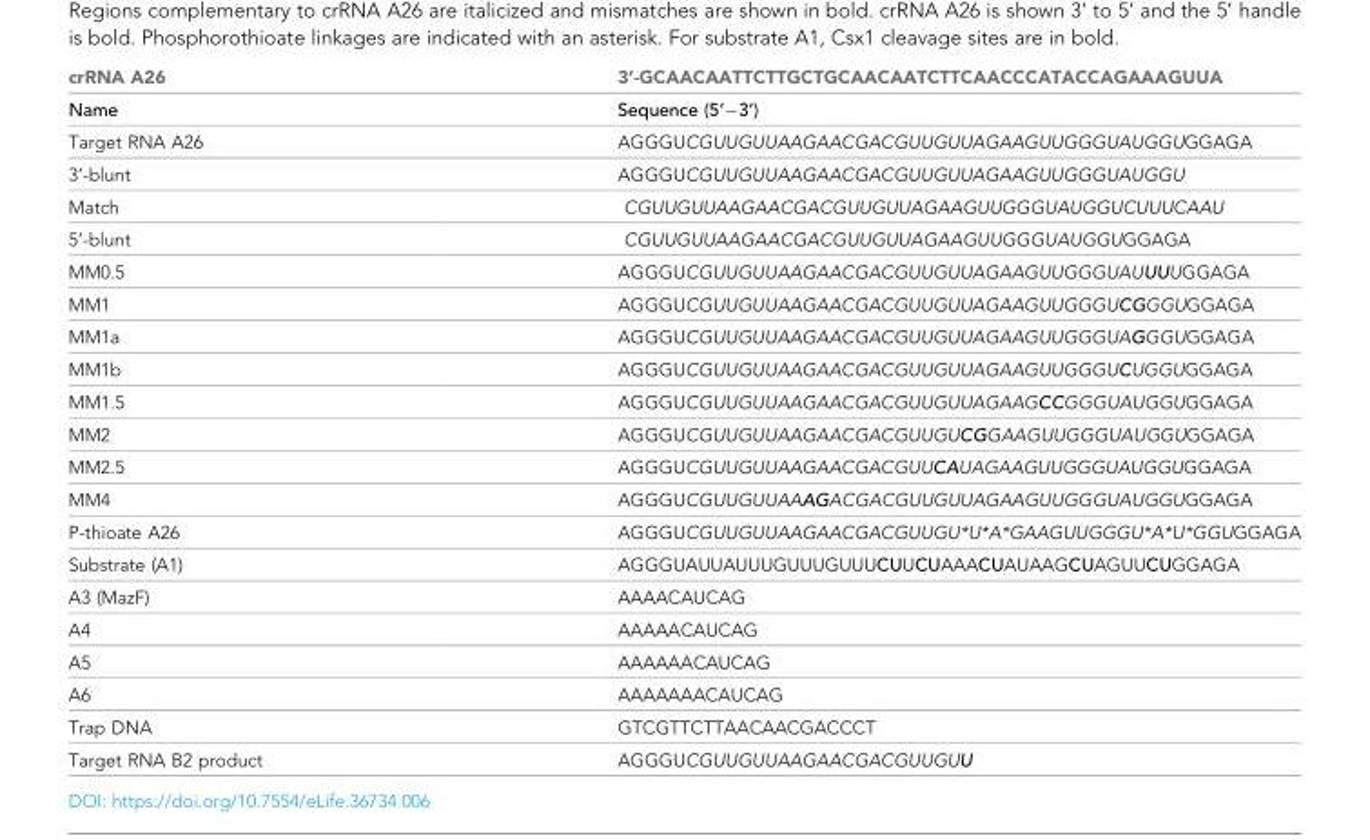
<table><thead><tr><td>crRNA A26</td><td>3’-GCAACAATTCTTGCTGCAACAATCTTCAACCCATACCAGAAAGUUA</td></tr></thead><tbody><tr><td>Name</td><td>Sequence (5’−3’)</td></tr><tr><td>Target RNA A26</td><td>AGGGUCGUUGUUAAGAACGACGUUGUUAGAAGUUGGGUAUGGUGGAGA</td></tr><tr><td>3’-blunt</td><td>AGGGUCGUUGUUAAGAACGACGUUGUUAGAAGUUGGGUAUGGU</td></tr><tr><td>Match</td><td>CGUUGUUAAGAACGACGUUGUUAGAAGUUGGGUAUGGUCUUUCAAU</td></tr><tr><td>5’-blunt</td><td>CGUUGUUAAGAACGACGUUGUUAGAAGUUGGGUAUGGUGGAGA</td></tr><tr><td>MM0.5</td><td>AGGGUCGUUGUUAAGAACGACGUUGUUAGAAGUUGGGUAUUUUGGAGA</td></tr><tr><td>MM1</td><td>AGGGUCGUUGUUAAGAACGACGUUGUUAGAAGUUGGGUCGGGUGGAGA</td></tr><tr><td>MM1a</td><td>AGGGUCGUUGUUAAGAACGACGUUGUUAGAAGUUGGGUAGGGUGGAGA</td></tr><tr><td>MM1b</td><td>AGGGUCGUUGUUAAGAACGACGUUGUUAGAAGUUGGGUCUGGUGGAGA</td></tr><tr><td>MM1.5</td><td>AGGGUCGUUGUUAAGAACGACGUUGUUAGAAGCCGGGUAUGGUGGAGA</td></tr><tr><td>MM2</td><td>AGGGUCGUUGUUAAGAACGACGUUGUCGGAAGUUGGGUAUGGUGGAGA</td></tr><tr><td>MM2.5</td><td>AGGGUCGUUGUUAAGAACGACGUUCAUAGAAGUUGGGUAUGGUGGAGA</td></tr><tr><td>MM4</td><td>AGGGUCGUUGUUAAAGACGACGUUGUUAGAAGUUGGGUAUGGUGGAGA</td></tr><tr><td>P-thioate A26</td><td>AGGGUCGUUGUUAAGAACGACGUUGU*U*A*GAAGUUGGGU*A*U*GGUGGAGA</td></tr><tr><td>Substrate (A1)</td><td>AGGGUAUUAUUUGUUUGUUUCUUCUAAACUAUAAGCUAGUUCUGGAGA</td></tr><tr><td>A3 (MazF)</td><td>AAAACAUCAG</td></tr><tr><td>A4</td><td>AAAAACAUCAG</td></tr><tr><td>A5</td><td>AAAAAACAUCAG</td></tr><tr><td>A6</td><td>AAAAAAACAUCAG</td></tr><tr><td>Trap DNA</td><td>GTCGTTCTTAACAACGACCCT</td></tr><tr><td>Target RNA B2 product</td><td>AGGGUCGUUGUUAAGAACGACGUUGUU</td></tr></tbody></table>